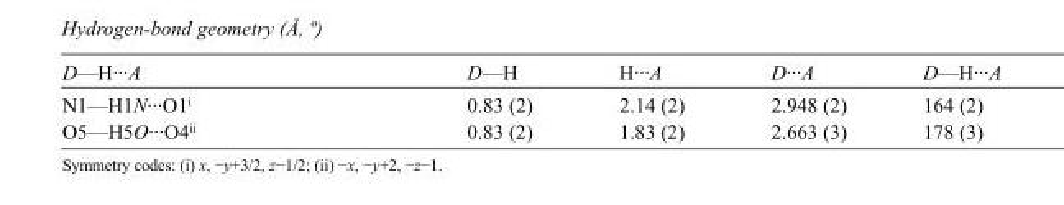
<table><tbody><tr><td>D—H···A</td><td>D—H</td><td>H···A</td><td>D···A</td><td>D—H···A</td></tr><tr><td>N1—H1N···O1<sup>i</sup></td><td>0.83 (2)</td><td>2.14 (2)</td><td>2.948 (2)</td><td>164 (2)</td></tr><tr><td>O5—H5O···O4<sup>ii</sup></td><td>0.83 (2)</td><td>1.83 (2)</td><td>2.663 (3)</td><td>178 (3)</td></tr></tbody></table>